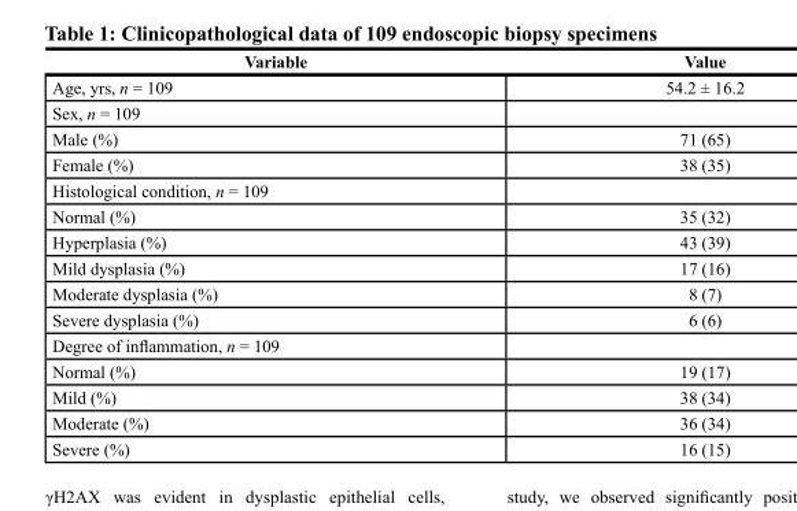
<table><thead><tr><td>Variable</td><td>Value</td></tr></thead><tbody><tr><td>Age, yrs, n = 109</td><td>54.2 ± 16.2</td></tr><tr><td colspan="2">Sex, n = 109</td></tr><tr><td>Male (%)</td><td>71 (65)</td></tr><tr><td>Female (%)</td><td>38 (35)</td></tr><tr><td colspan="2">Histological condition, n = 109</td></tr><tr><td>Normal (%)</td><td>35 (32)</td></tr><tr><td>Hyperplasia (%)</td><td>43 (39)</td></tr><tr><td>Mild dysplasia (%)</td><td>17 (16)</td></tr><tr><td>Moderate dysplasia (%)</td><td>8 (7)</td></tr><tr><td>Severe dysplasia (%)</td><td>6 (6)</td></tr><tr><td colspan="2">Degree of inflammation, n = 109</td></tr><tr><td>Normal (%)</td><td>19 (17)</td></tr><tr><td>Mild (%)</td><td>38 (34)</td></tr><tr><td>Moderate (%)</td><td>36 (34)</td></tr><tr><td>Severe (%)</td><td>16 (15)</td></tr></tbody></table>